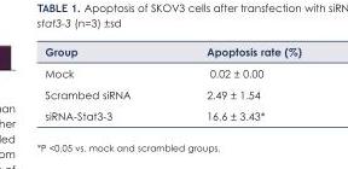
<table><thead><tr><td>Group</td><td>Apoptosis rate (%)</td></tr></thead><tbody><tr><td>Mock</td><td>0.02 ± 0.00</td></tr><tr><td>Scrambed siRNA</td><td>2.49 ± 1.54</td></tr><tr><td>siRNA-Stat3-3</td><td>16.6 ± 3.43*</td></tr></tbody></table>